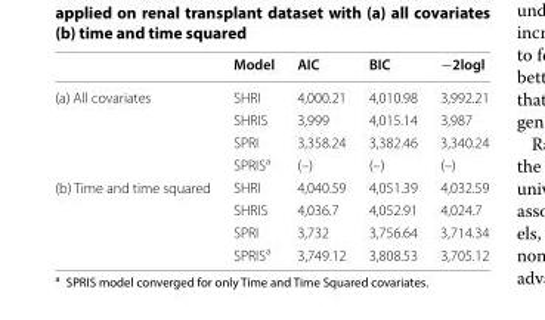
<table><thead><tr><td></td><td>Model</td><td>AIC</td><td>BIC</td><td>−2logl</td></tr></thead><tbody><tr><td rowspan="4">(a) All covariates</td><td>SHRI</td><td>4,000.21</td><td>4,010.98</td><td>3,992.21</td></tr><tr><td>SHRIS</td><td>3,999</td><td>4,015.14</td><td>3,987</td></tr><tr><td>SPRI</td><td>3,358.24</td><td>3,382.46</td><td>3,340.24</td></tr><tr><td>SPRIS<sup>a</sup></td><td>(–)</td><td>(–)</td><td>(–)</td></tr><tr><td rowspan="4">(b) Time and time squared</td><td>SHRI</td><td>4,040.59</td><td>4,051.39</td><td>4,032.59</td></tr><tr><td>SHRIS</td><td>4,036.7</td><td>4,052.91</td><td>4,024.7</td></tr><tr><td>SPRI</td><td>3,732</td><td>3,756.64</td><td>3,714.34</td></tr><tr><td>SPRIS<sup>a</sup></td><td>3,749.12</td><td>3,808.53</td><td>3,705.12</td></tr></tbody></table>